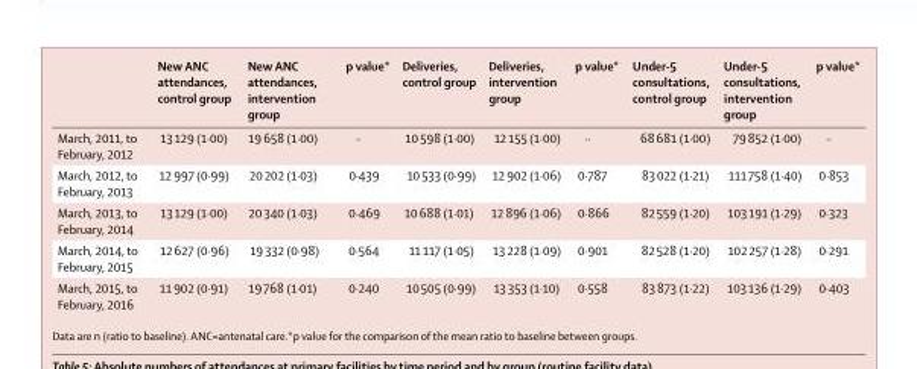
<table><thead><tr><td></td><td>New ANC attendances, control group</td><td>New ANC attendances, intervention group</td><td>p value*</td><td>Deliveries, control group</td><td>Deliveries, intervention group</td><td>p value*</td><td>Under-5 consultations, control group</td><td>Under-5 consultations, intervention group</td><td>p value*</td></tr></thead><tbody><tr><td>March, 2011, to February, 2012</td><td>13 129 (1·00)</td><td>19 658 (1·00)</td><td>··</td><td>10 598 (1·00)</td><td>12 155 (1·00)</td><td>··</td><td>68 681 (1·00)</td><td>79 852 (1·00)</td><td>··</td></tr><tr><td>March, 2012, to February, 2013</td><td>12 997 (0·99)</td><td>20 202 (1·03)</td><td>0·439</td><td>10 533 (0·99)</td><td>12 902 (1·06)</td><td>0·787</td><td>83 022 (1·21)</td><td>111 758 (1·40)</td><td>0·853</td></tr><tr><td>March, 2013, to February, 2014</td><td>13 129 (1·00)</td><td>20 340 (1·03)</td><td>0·469</td><td>10 688 (1·01)</td><td>12 896 (1·06)</td><td>0·866</td><td>82 559 (1·20)</td><td>103 191 (1·29)</td><td>0·323</td></tr><tr><td>March, 2014, to February, 2015</td><td>12 627 (0·96)</td><td>19 332 (0·98)</td><td>0·564</td><td>11 117 (1·05)</td><td>13 228 (1·09)</td><td>0·901</td><td>82 528 (1·20)</td><td>102 257 (1·28)</td><td>0·291</td></tr><tr><td>March, 2015, to February, 2016</td><td>11 902 (0·91)</td><td>19 768 (1·01)</td><td>0·240</td><td>10 505 (0·99)</td><td>13 353 (1·10)</td><td>0·558</td><td>83 873 (1·22)</td><td>103 136 (1·29)</td><td>0·403</td></tr></tbody></table>